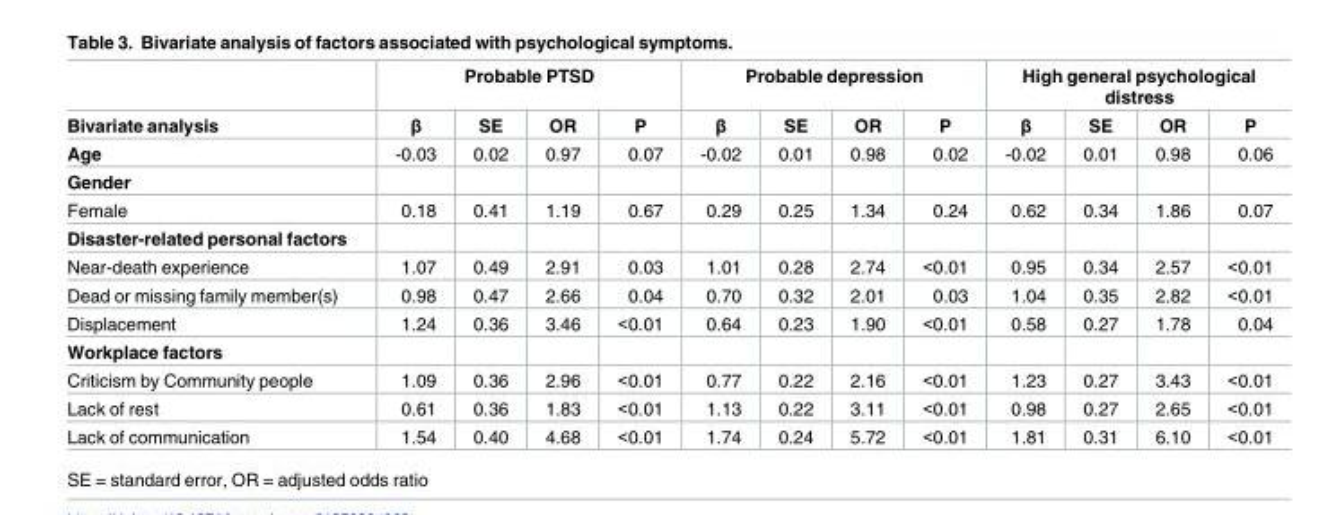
<table><thead><tr><td rowspan="2">Bivariate analysis</td><td colspan="4">Probable PTSD</td><td colspan="4">Probable depression</td><td colspan="4">High general psychological distress</td></tr><tr><td>β</td><td>SE</td><td>OR</td><td>P</td><td>β</td><td>SE</td><td>OR</td><td>P</td><td>β</td><td>SE</td><td>OR</td><td>P</td></tr></thead><tbody><tr><td>Age</td><td>-0.03</td><td>0.02</td><td>0.97</td><td>0.07</td><td>-0.02</td><td>0.01</td><td>0.98</td><td>0.02</td><td>-0.02</td><td>0.01</td><td>0.98</td><td>0.06</td></tr><tr><td colspan="13">Gender</td></tr><tr><td>Female</td><td>0.18</td><td>0.41</td><td>1.19</td><td>0.67</td><td>0.29</td><td>0.25</td><td>1.34</td><td>0.24</td><td>0.62</td><td>0.34</td><td>1.86</td><td>0.07</td></tr><tr><td colspan="13">Disaster-related personal factors</td></tr><tr><td>Near-death experience</td><td>1.07</td><td>0.49</td><td>2.91</td><td>0.03</td><td>1.01</td><td>0.28</td><td>2.74</td><td>&lt;0.01</td><td>0.95</td><td>0.34</td><td>2.57</td><td>&lt;0.01</td></tr><tr><td>Dead or missing family member(s)</td><td>0.98</td><td>0.47</td><td>2.66</td><td>0.04</td><td>0.70</td><td>0.32</td><td>2.01</td><td>0.03</td><td>1.04</td><td>0.35</td><td>2.82</td><td>&lt;0.01</td></tr><tr><td>Displacement</td><td>1.24</td><td>0.36</td><td>3.46</td><td>&lt;0.01</td><td>0.64</td><td>0.23</td><td>1.90</td><td>&lt;0.01</td><td>0.58</td><td>0.27</td><td>1.78</td><td>0.04</td></tr><tr><td colspan="13">Workplace factors</td></tr><tr><td>Criticism by Community people</td><td>1.09</td><td>0.36</td><td>2.96</td><td>&lt;0.01</td><td>0.77</td><td>0.22</td><td>2.16</td><td>&lt;0.01</td><td>1.23</td><td>0.27</td><td>3.43</td><td>&lt;0.01</td></tr><tr><td>Lack of rest</td><td>0.61</td><td>0.36</td><td>1.83</td><td>&lt;0.01</td><td>1.13</td><td>0.22</td><td>3.11</td><td>&lt;0.01</td><td>0.98</td><td>0.27</td><td>2.65</td><td>&lt;0.01</td></tr><tr><td>Lack of communication</td><td>1.54</td><td>0.40</td><td>4.68</td><td>&lt;0.01</td><td>1.74</td><td>0.24</td><td>5.72</td><td>&lt;0.01</td><td>1.81</td><td>0.31</td><td>6.10</td><td>&lt;0.01</td></tr></tbody></table>